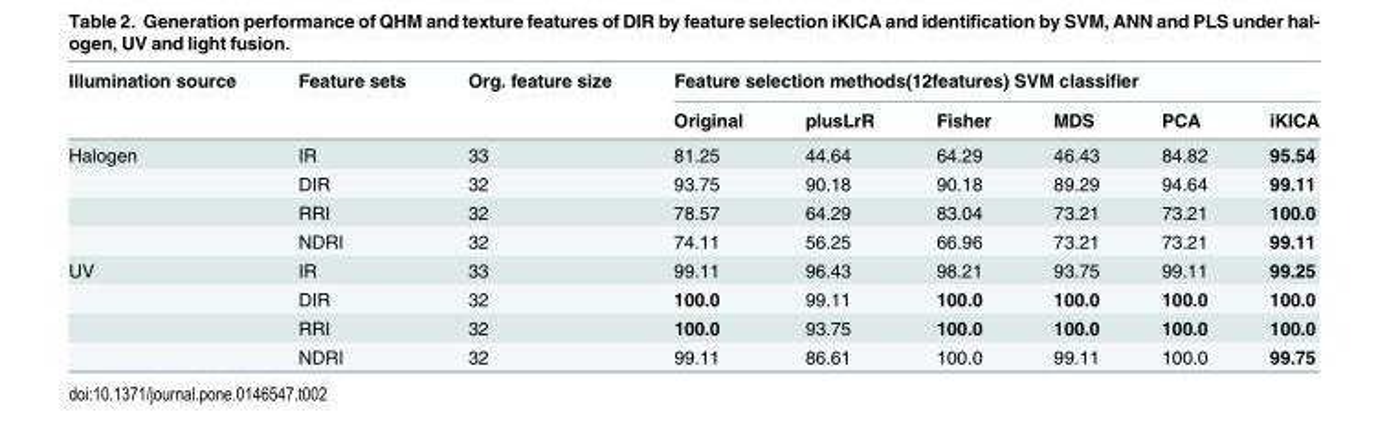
<table><thead><tr><td rowspan="2">Illumination source</td><td rowspan="2">Feature sets</td><td rowspan="2">Org. feature size</td><td colspan="6">Feature selection methods(12features) SVM classifier</td></tr><tr><td>Original</td><td>plusLrR</td><td>Fisher</td><td>MDS</td><td>PCA</td><td>iKICA</td></tr></thead><tbody><tr><td rowspan="4">Halogen</td><td>IR</td><td>33</td><td>81.25</td><td>44.64</td><td>64.29</td><td>46.43</td><td>84.82</td><td>95.54</td></tr><tr><td>DIR</td><td>32</td><td>93.75</td><td>90.18</td><td>90.18</td><td>89.29</td><td>94.64</td><td>99.11</td></tr><tr><td>RRI</td><td>32</td><td>78.57</td><td>64.29</td><td>83.04</td><td>73.21</td><td>73.21</td><td>100.0</td></tr><tr><td>NDRI</td><td>32</td><td>74.11</td><td>56.25</td><td>66.96</td><td>73.21</td><td>73.21</td><td>99.11</td></tr><tr><td rowspan="4">UV</td><td>IR</td><td>33</td><td>99.11</td><td>96.43</td><td>98.21</td><td>93.75</td><td>99.11</td><td>99.25</td></tr><tr><td>DIR</td><td>32</td><td>100.0</td><td>99.11</td><td>100.0</td><td>100.0</td><td>100.0</td><td>100.0</td></tr><tr><td>RRI</td><td>32</td><td>100.0</td><td>93.75</td><td>100.0</td><td>100.0</td><td>100.0</td><td>100.0</td></tr><tr><td>NDRI</td><td>32</td><td>99.11</td><td>86.61</td><td>100.0</td><td>99.11</td><td>100.0</td><td>99.75</td></tr></tbody></table>